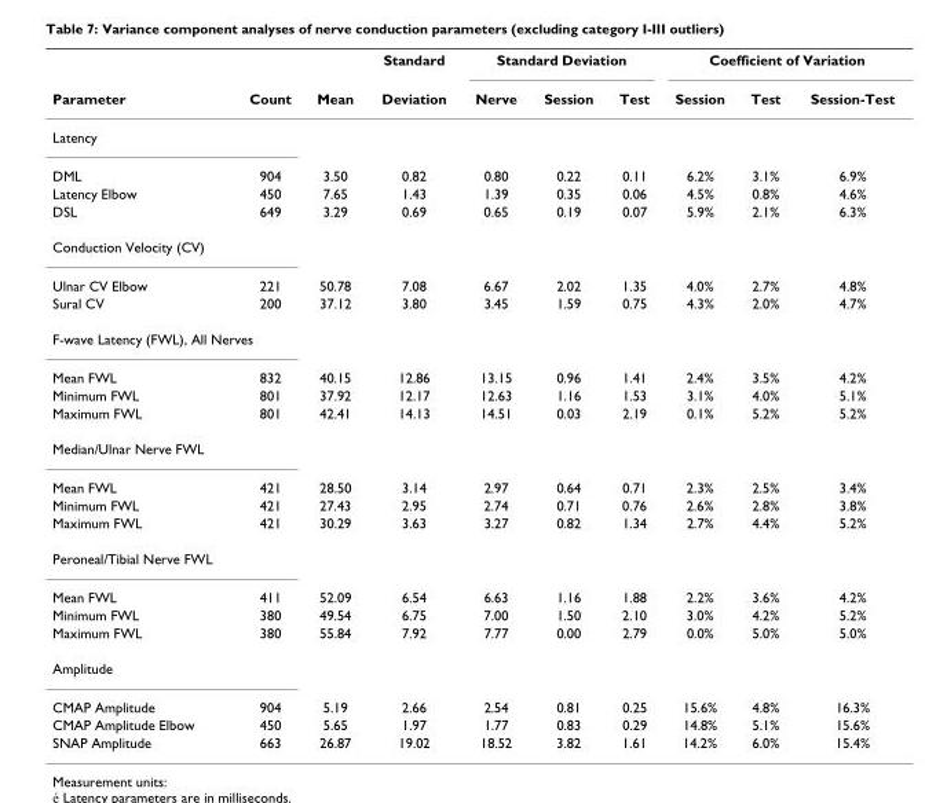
<table><thead><tr><td rowspan="2">Parameter</td><td rowspan="2">Count</td><td rowspan="2">Mean</td><td rowspan="2">Standard Deviation</td><td colspan="3">Standard Deviation</td><td colspan="3">Coefficient of Variation</td></tr><tr><td>Nerve</td><td>Session</td><td>Test</td><td>Session</td><td>Test</td><td>Session-Test</td></tr></thead><tbody><tr><td colspan="10">Latency</td></tr><tr><td>DML</td><td>904</td><td>3.50</td><td>0.82</td><td>0.80</td><td>0.22</td><td>0.11</td><td>6.2%</td><td>3.1%</td><td>6.9%</td></tr><tr><td>Latency Elbow</td><td>450</td><td>7.65</td><td>1.43</td><td>1.39</td><td>0.35</td><td>0.06</td><td>4.5%</td><td>0.8%</td><td>4.6%</td></tr><tr><td>DSL</td><td>649</td><td>3.29</td><td>0.69</td><td>0.65</td><td>0.19</td><td>0.07</td><td>5.9%</td><td>2.1%</td><td>6.3%</td></tr><tr><td colspan="10">Conduction Velocity (CV)</td></tr><tr><td>Ulnar CV Elbow</td><td>221</td><td>50.78</td><td>7.08</td><td>6.67</td><td>2.02</td><td>1.35</td><td>4.0%</td><td>2.7%</td><td>4.8%</td></tr><tr><td>Sural CV</td><td>200</td><td>37.12</td><td>3.80</td><td>3.45</td><td>1.59</td><td>0.75</td><td>4.3%</td><td>2.0%</td><td>4.7%</td></tr><tr><td colspan="10">F-wave Latency (FWL), All Nerves</td></tr><tr><td>Mean FWL</td><td>832</td><td>40.15</td><td>12.86</td><td>13.15</td><td>0.96</td><td>1.41</td><td>2.4%</td><td>3.5%</td><td>4.2%</td></tr><tr><td>Minimum FWL</td><td>801</td><td>37.92</td><td>12.17</td><td>12.63</td><td>1.16</td><td>1.53</td><td>3.1%</td><td>4.0%</td><td>5.1%</td></tr><tr><td>Maximum FWL</td><td>801</td><td>42.41</td><td>14.13</td><td>14.51</td><td>0.03</td><td>2.19</td><td>0.1%</td><td>5.2%</td><td>5.2%</td></tr><tr><td colspan="10">Median/Ulnar Nerve FWL</td></tr><tr><td>Mean FWL</td><td>421</td><td>28.50</td><td>3.14</td><td>2.97</td><td>0.64</td><td>0.71</td><td>2.3%</td><td>2.5%</td><td>3.4%</td></tr><tr><td>Minimum FWL</td><td>421</td><td>27.43</td><td>2.95</td><td>2.74</td><td>0.71</td><td>0.76</td><td>2.6%</td><td>2.8%</td><td>3.8%</td></tr><tr><td>Maximum FWL</td><td>421</td><td>30.29</td><td>3.63</td><td>3.27</td><td>0.82</td><td>1.34</td><td>2.7%</td><td>4.4%</td><td>5.2%</td></tr><tr><td colspan="10">Peroneal/Tibial Nerve FWL</td></tr><tr><td>Mean FWL</td><td>411</td><td>52.09</td><td>6.54</td><td>6.63</td><td>1.16</td><td>1.88</td><td>2.2%</td><td>3.6%</td><td>4.2%</td></tr><tr><td>Minimum FWL</td><td>380</td><td>49.54</td><td>6.75</td><td>7.00</td><td>1.50</td><td>2.10</td><td>3.0%</td><td>4.2%</td><td>5.2%</td></tr><tr><td>Maximum FWL</td><td>380</td><td>55.84</td><td>7.92</td><td>7.77</td><td>0.00</td><td>2.79</td><td>0.0%</td><td>5.0%</td><td>5.0%</td></tr><tr><td colspan="10">Amplitude</td></tr><tr><td>CMAP Amplitude</td><td>904</td><td>5.19</td><td>2.66</td><td>2.54</td><td>0.81</td><td>0.25</td><td>15.6%</td><td>4.8%</td><td>16.3%</td></tr><tr><td>CMAP Amplitude Elbow</td><td>450</td><td>5.65</td><td>1.97</td><td>1.77</td><td>0.83</td><td>0.29</td><td>14.8%</td><td>5.1%</td><td>15.6%</td></tr><tr><td>SNAP Amplitude</td><td>663</td><td>26.87</td><td>19.02</td><td>18.52</td><td>3.82</td><td>1.61</td><td>14.2%</td><td>6.0%</td><td>15.4%</td></tr></tbody></table>